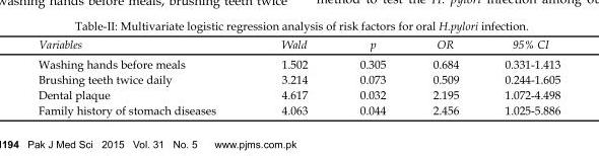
<table><thead><tr><td>Variables</td><td>Wald</td><td>p</td><td>OR</td><td>95% CI</td></tr></thead><tbody><tr><td>Washing hands before meals</td><td>1.502</td><td>0.305</td><td>0.684</td><td>0.331-1.413</td></tr><tr><td>Brushing teeth twice daily</td><td>3.214</td><td>0.073</td><td>0.509</td><td>0.244-1.605</td></tr><tr><td>Dental plaque</td><td>4.617</td><td>0.032</td><td>2.195</td><td>1.072-4.498</td></tr><tr><td>Family history of stomach diseases</td><td>4.063</td><td>0.044</td><td>2.456</td><td>1.025-5.886</td></tr></tbody></table>